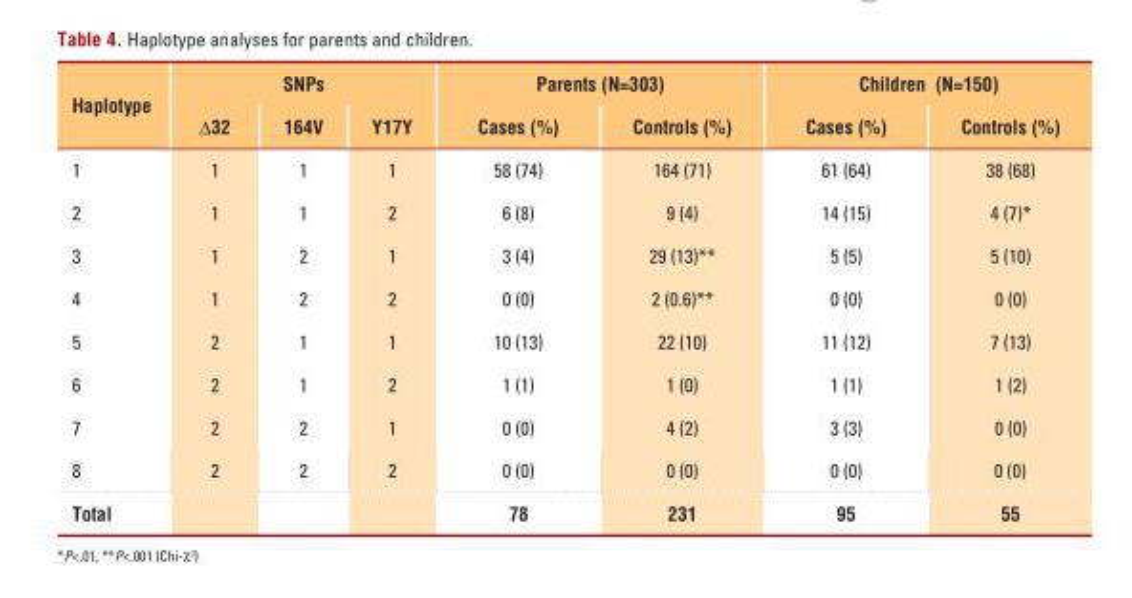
<table><thead><tr><td rowspan="2">Haplotype</td><td colspan="3">SNPs</td><td colspan="2">Parents (N=303)</td><td colspan="2">Children (N=150)</td></tr><tr><td>∆32</td><td>164V</td><td>Y17Y</td><td>Cases (%)</td><td>Controls (%)</td><td>Cases (%)</td><td>Controls (%)</td></tr></thead><tbody><tr><td>1</td><td>1</td><td>1</td><td>1</td><td>58 (74)</td><td>164 (71)</td><td>61 (64)</td><td>38 (68)</td></tr><tr><td>2</td><td>1</td><td>1</td><td>2</td><td>6 (8)</td><td>9 (4)</td><td>14 (15)</td><td>4 (7)*</td></tr><tr><td>3</td><td>1</td><td>2</td><td>1</td><td>3 (4)</td><td>29 (13)**</td><td>5 (5)</td><td>5 (10)</td></tr><tr><td>4</td><td>1</td><td>2</td><td>2</td><td>0 (0)</td><td>2 (0.6)**</td><td>0 (0)</td><td>0 (0)</td></tr><tr><td>5</td><td>2</td><td>1</td><td>1</td><td>10 (13)</td><td>22 (10)</td><td>11 (12)</td><td>7 (13)</td></tr><tr><td>6</td><td>2</td><td>1</td><td>2</td><td>1 (1)</td><td>1 (0)</td><td>1 (1)</td><td>1 (2)</td></tr><tr><td>7</td><td>2</td><td>2</td><td>1</td><td>0 (0)</td><td>4 (2)</td><td>3 (3)</td><td>0 (0)</td></tr><tr><td>8</td><td>2</td><td>2</td><td>2</td><td>0 (0)</td><td>0 (0)</td><td>0 (0)</td><td>0 (0)</td></tr><tr><td>Total</td><td></td><td></td><td></td><td>78</td><td>231</td><td>95</td><td>55</td></tr></tbody></table>